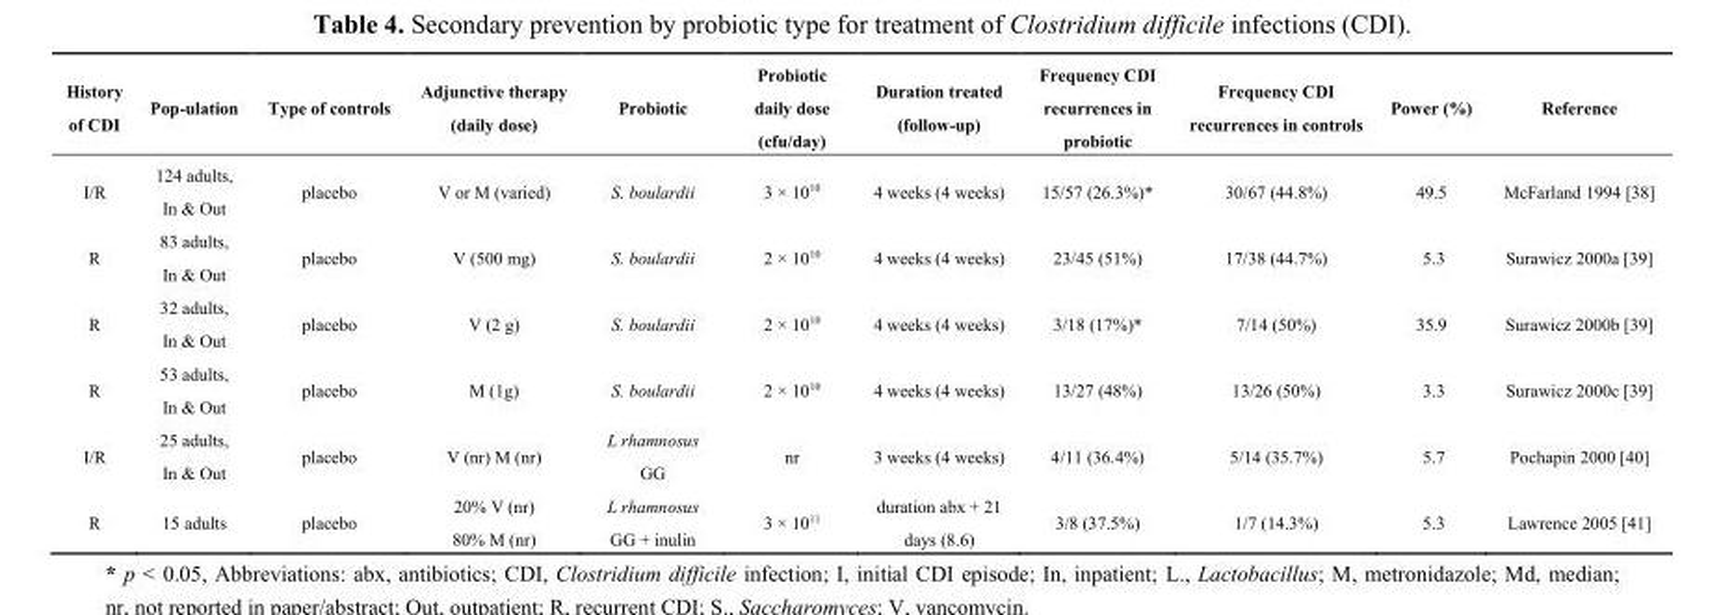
<table><thead><tr><td>History of CDI</td><td>Pop-ulation</td><td>Type of controls</td><td>Adjunctive therapy (daily dose)</td><td>Probiotic</td><td>Probiotic daily dose (cfu/day)</td><td>Duration treated (follow-up)</td><td>Frequency CDI recurrences in probiotic</td><td>Frequency CDI recurrences in controls</td><td>Power (%)</td><td>Reference</td></tr></thead><tbody><tr><td>I/R</td><td>124 adults, In &amp; Out</td><td>placebo</td><td>V or M (varied)</td><td>S. boulardii</td><td>3 × 10<sup>10</sup></td><td>4 weeks (4 weeks)</td><td>15/57 (26.3%)*</td><td>30/67 (44.8%)</td><td>49.5</td><td>McFarland 1994 [38]</td></tr><tr><td>R</td><td>83 adults, In &amp; Out</td><td>placebo</td><td>V (500 mg)</td><td>S. boulardii</td><td>2 × 10<sup>10</sup></td><td>4 weeks (4 weeks)</td><td>23/45 (51%)</td><td>17/38 (44.7%)</td><td>5.3</td><td>Surawicz 2000a [39]</td></tr><tr><td>R</td><td>32 adults, In &amp; Out</td><td>placebo</td><td>V (2 g)</td><td>S. boulardii</td><td>2 × 10<sup>10</sup></td><td>4 weeks (4 weeks)</td><td>3/18 (17%)*</td><td>7/14 (50%)</td><td>35.9</td><td>Surawicz 2000b [39]</td></tr><tr><td>R</td><td>53 adults, In &amp; Out</td><td>placebo</td><td>M (1g)</td><td>S. boulardii</td><td>2 × 10<sup>10</sup></td><td>4 weeks (4 weeks)</td><td>13/27 (48%)</td><td>13/26 (50%)</td><td>3.3</td><td>Surawicz 2000c [39]</td></tr><tr><td>I/R</td><td>25 adults, In &amp; Out</td><td>placebo</td><td>V (nr) M (nr)</td><td>L rhamnosus GG</td><td>nr</td><td>3 weeks (4 weeks)</td><td>4/11 (36.4%)</td><td>5/14 (35.7%)</td><td>5.7</td><td>Pochapin 2000 [40]</td></tr><tr><td>R</td><td>15 adults</td><td>placebo</td><td>20% V (nr) 80% M (nr)</td><td>L rhamnosus GG + inulin</td><td>3 × 10<sup>11</sup></td><td>duration abx + 21 days (8.6)</td><td>3/8 (37.5%)</td><td>1/7 (14.3%)</td><td>5.3</td><td>Lawrence 2005 [41]</td></tr></tbody></table>